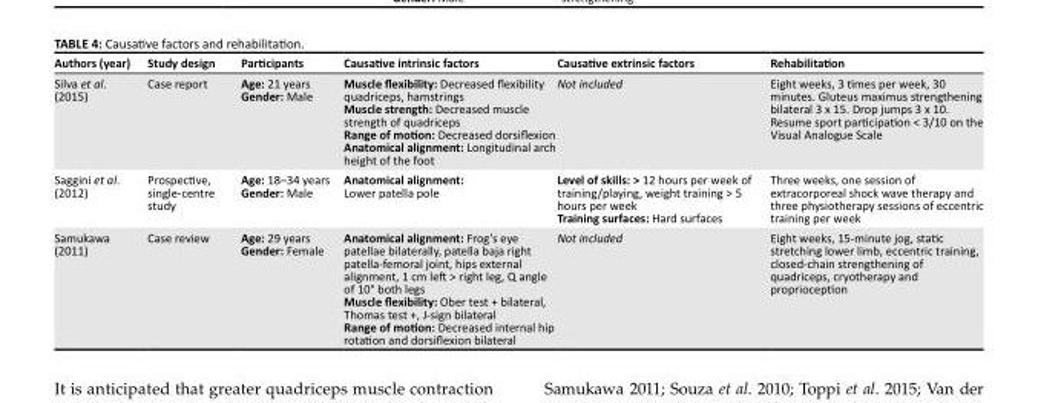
<table><thead><tr><td>Authors (year)</td><td>Study design</td><td>Participants</td><td>Causative intrinsic factors</td><td>Causative extrinsic factors</td><td>Rehabilitation</td></tr></thead><tbody><tr><td>Silva et al. (2015)</td><td>Case report</td><td>Age: 21 years Gender: Male</td><td>Muscle flexibility: Decreased flexibility quadriceps, hamstrings Muscle strength: Decreased muscle strength of quadriceps Range of motion: Decreased dorsiflexion Anatomical alignment: Longitudinal arch height of the foot</td><td>Not included</td><td>Eight weeks, 3 times per week, 30 minutes. Gluteus maximus strengthening bilateral 3 x 15. Drop jumps 3 x 10. Resume sport participation &lt; 3/10 on the Visual Analogue Scale</td></tr><tr><td>Saggini et al. (2012)</td><td>Prospective, single-centre study</td><td>Age: 18–34 years Gender: Male</td><td>Anatomical alignment: Lower patella pole</td><td>Level of skills: &gt; 12 hours per week of training/playing, weight training &gt; 5 hours per week Training surfaces: Hard surfaces</td><td>Three weeks, one session of extracorporeal shock wave therapy and three physiotherapy sessions of eccentric training per week</td></tr><tr><td>Samukawa (2011)</td><td>Case review</td><td>Age: 29 years Gender: Female</td><td>Anatomical alignment: Frog’s eye patellae bilaterally, patella baja right patella-femoral joint, hips external alignment, 1 cm left &gt; right leg, Q angle of 10° both legs Muscle flexibility: Ober test + bilateral, Thomas test +, J-sign bilateral Range of motion: Decreased internal hip rotation and dorsiflexion bilateral</td><td>Not included</td><td>Eight weeks, 15-minute jog, static stretching lower limb, eccentric training, closed-chain strengthening of quadriceps, cryotherapy and proprioception</td></tr></tbody></table>